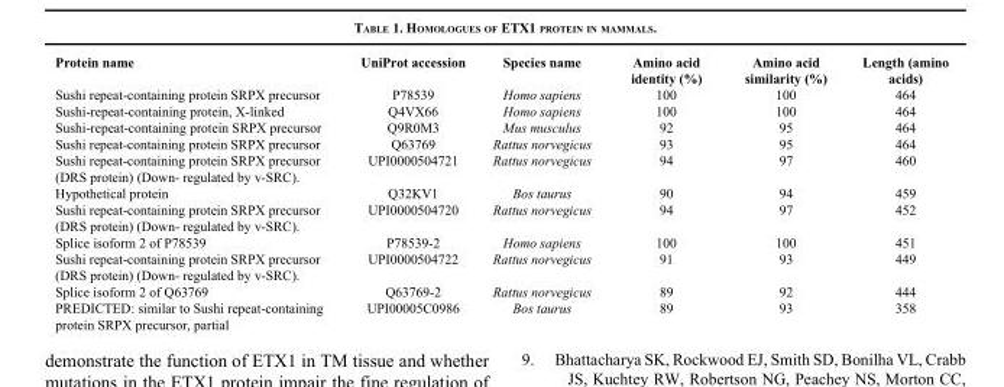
<table><thead><tr><td>Protein name</td><td>UniProt accession</td><td>Species name</td><td>Amino acid identity (%)</td><td>Amino acid similarity (%)</td><td>Length (amino acids)</td></tr></thead><tbody><tr><td>Sushi repeat-containing protein SRPX precursor</td><td>P78539</td><td>Homo sapiens</td><td>100</td><td>100</td><td>464</td></tr><tr><td>Sushi-repeat-containing protein, X-linked</td><td>Q4VX66</td><td>Homo sapiens</td><td>100</td><td>100</td><td>464</td></tr><tr><td>Sushi-repeat-containing protein SRPX precursor</td><td>Q9R0M3</td><td>Mus musculus</td><td>92</td><td>95</td><td>464</td></tr><tr><td>Sushi repeat-containing protein SRPX precursor</td><td>Q63769</td><td>Rattus norvegicus</td><td>93</td><td>95</td><td>464</td></tr><tr><td>Sushi repeat-containing protein SRPX precursor (DRS protein) (Down- regulated by v-SRC).</td><td>UPI0000504721</td><td>Rattus norvegicus</td><td>94</td><td>97</td><td>460</td></tr><tr><td>Hypothetical protein</td><td>Q32KV1</td><td>Bos taurus</td><td>90</td><td>94</td><td>459</td></tr><tr><td>Sushi repeat-containing protein SRPX precursor (DRS protein) (Down- regulated by v-SRC).</td><td>UPI0000504720</td><td>Rattus norvegicus</td><td>94</td><td>97</td><td>452</td></tr><tr><td>Splice isoform 2 of P78539</td><td>P78539-2</td><td>Homo sapiens</td><td>100</td><td>100</td><td>451</td></tr><tr><td>Sushi repeat-containing protein SRPX precursor (DRS protein) (Down- regulated by v-SRC).</td><td>UPI0000504722</td><td>Rattus norvegicus</td><td>91</td><td>93</td><td>449</td></tr><tr><td>Splice isoform 2 of Q63769</td><td>Q63769-2</td><td>Rattus norvegicus</td><td>89</td><td>92</td><td>444</td></tr><tr><td>PREDICTED: similar to Sushi repeat-containing protein SRPX precursor, partial</td><td>UPI00005C0986</td><td>Bos taurus</td><td>89</td><td>93</td><td>358</td></tr></tbody></table>